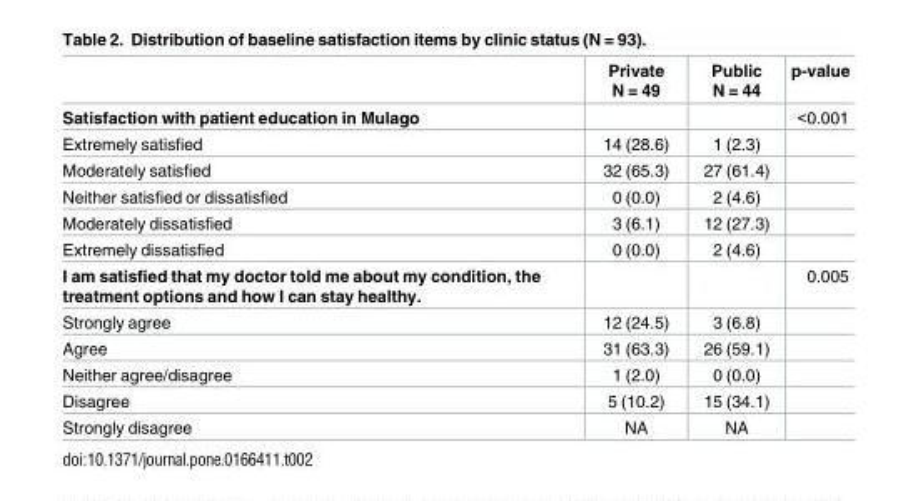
<table><thead><tr><td></td><td>Private N = 49</td><td>Public N = 44</td><td>p-value</td></tr></thead><tbody><tr><td>Satisfaction with patient education in Mulago</td><td></td><td></td><td>&lt;0.001</td></tr><tr><td>Extremely satisfied</td><td>14 (28.6)</td><td>1 (2.3)</td><td></td></tr><tr><td>Moderately satisfied</td><td>32 (65.3)</td><td>27 (61.4)</td><td></td></tr><tr><td>Neither satisfied or dissatisfied</td><td>0 (0.0)</td><td>2 (4.6)</td><td></td></tr><tr><td>Moderately dissatisfied</td><td>3 (6.1)</td><td>12 (27.3)</td><td></td></tr><tr><td>Extremely dissatisfied</td><td>0 (0.0)</td><td>2 (4.6)</td><td></td></tr><tr><td>I am satisfied that my doctor told me about my condition, the treatment options and how I can stay healthy.</td><td></td><td></td><td>0.005</td></tr><tr><td>Strongly agree</td><td>12 (24.5)</td><td>3 (6.8)</td><td></td></tr><tr><td>Agree</td><td>31 (63.3)</td><td>26 (59.1)</td><td></td></tr><tr><td>Neither agree/disagree</td><td>1 (2.0)</td><td>0 (0.0)</td><td></td></tr><tr><td>Disagree</td><td>5 (10.2)</td><td>15 (34.1)</td><td></td></tr><tr><td>Strongly disagree</td><td>NA</td><td>NA</td><td></td></tr></tbody></table>